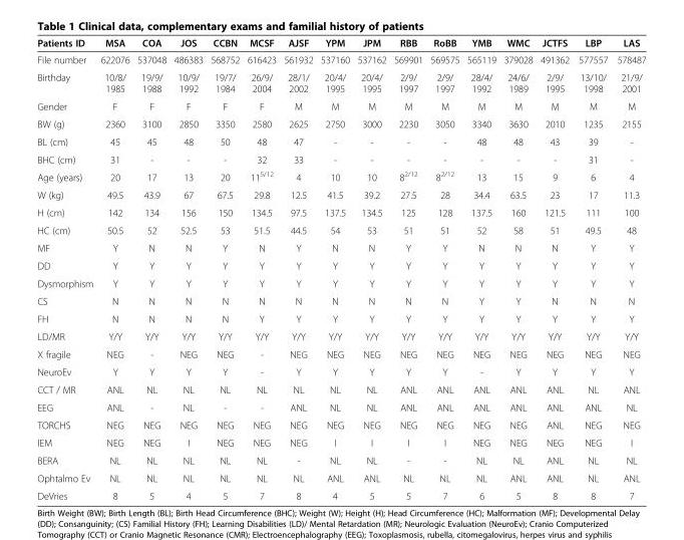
<table><thead><tr><td>Patients ID</td><td>MSA</td><td>COA</td><td>JOS</td><td>CCBN</td><td>MCSF</td><td>AJSF</td><td>YPM</td><td>JPM</td><td>RBB</td><td>RoBB</td><td>YMB</td><td>WMC</td><td>JCTFS</td><td>LBP</td><td>LAS</td></tr></thead><tbody><tr><td>File number</td><td>622076</td><td>537048</td><td>486383</td><td>568752</td><td>616423</td><td>561932</td><td>537160</td><td>537162</td><td>569901</td><td>569575</td><td>565119</td><td>379028</td><td>491362</td><td>577557</td><td>578487</td></tr><tr><td>Birthday</td><td>10/8/ 1985</td><td>19/9/ 1988</td><td>10/9/ 1992</td><td>19/7/ 1984</td><td>26/9/ 2004</td><td>28/1/ 2002</td><td>20/4/ 1995</td><td>20/4/ 1995</td><td>2/9/ 1997</td><td>2/9/ 1997</td><td>28/4/ 1992</td><td>24/6/ 1989</td><td>2/9/ 1995</td><td>13/10/ 1998</td><td>21/9/ 2001</td></tr><tr><td>Gender</td><td>F</td><td>F</td><td>F</td><td>F</td><td>F</td><td>M</td><td>M</td><td>M</td><td>M</td><td>M</td><td>M</td><td>M</td><td>M</td><td>M</td><td>M</td></tr><tr><td>BW (g)</td><td>2360</td><td>3100</td><td>2850</td><td>3350</td><td>2580</td><td>2625</td><td>2750</td><td>3000</td><td>2230</td><td>3050</td><td>3340</td><td>3630</td><td>2010</td><td>1235</td><td>2155</td></tr><tr><td>BL (cm)</td><td>45</td><td>45</td><td>48</td><td>50</td><td>48</td><td>47</td><td>-</td><td>-</td><td>-</td><td>-</td><td>48</td><td>48</td><td>43</td><td>39</td><td>-</td></tr><tr><td>BHC (cm)</td><td>31</td><td>-</td><td>-</td><td>-</td><td>32</td><td>33</td><td>-</td><td>-</td><td>-</td><td>-</td><td>-</td><td>-</td><td>-</td><td>31</td><td>-</td></tr><tr><td>Age (years)</td><td>20</td><td>17</td><td>13</td><td>20</td><td>11<sup>5/12</sup></td><td>4</td><td>10</td><td>10</td><td>8<sup>2/12</sup></td><td>8<sup>2/12</sup></td><td>13</td><td>15</td><td>9</td><td>6</td><td>4</td></tr><tr><td>W (kg)</td><td>49.5</td><td>43.9</td><td>67</td><td>67.5</td><td>29.8</td><td>12.5</td><td>41.5</td><td>39.2</td><td>27.5</td><td>28</td><td>34.4</td><td>63.5</td><td>23</td><td>17</td><td>11.3</td></tr><tr><td>H (cm)</td><td>142</td><td>134</td><td>156</td><td>150</td><td>134.5</td><td>97.5</td><td>137.5</td><td>134.5</td><td>125</td><td>128</td><td>137.5</td><td>160</td><td>121.5</td><td>111</td><td>100</td></tr><tr><td>HC (cm)</td><td>50.5</td><td>52</td><td>52.5</td><td>53</td><td>51.5</td><td>44.5</td><td>54</td><td>53</td><td>51</td><td>51</td><td>52</td><td>58</td><td>51</td><td>49.5</td><td>48</td></tr><tr><td>MF</td><td>Y</td><td>N</td><td>N</td><td>Y</td><td>N</td><td>Y</td><td>N</td><td>N</td><td>Y</td><td>Y</td><td>N</td><td>N</td><td>N</td><td>Y</td><td>Y</td></tr><tr><td>DD</td><td>Y</td><td>Y</td><td>Y</td><td>Y</td><td>Y</td><td>Y</td><td>Y</td><td>Y</td><td>Y</td><td>Y</td><td>Y</td><td>Y</td><td>Y</td><td>Y</td><td>Y</td></tr><tr><td>Dysmorphism</td><td>Y</td><td>Y</td><td>Y</td><td>Y</td><td>Y</td><td>Y</td><td>Y</td><td>Y</td><td>Y</td><td>Y</td><td>Y</td><td>Y</td><td>Y</td><td>Y</td><td>Y</td></tr><tr><td>CS</td><td>N</td><td>N</td><td>N</td><td>N</td><td>N</td><td>N</td><td>N</td><td>N</td><td>N</td><td>N</td><td>Y</td><td>Y</td><td>N</td><td>N</td><td>N</td></tr><tr><td>FH</td><td>N</td><td>N</td><td>N</td><td>N</td><td>Y</td><td>Y</td><td>Y</td><td>Y</td><td>Y</td><td>Y</td><td>Y</td><td>Y</td><td>Y</td><td>Y</td><td>Y</td></tr><tr><td>LD/MR</td><td>Y/Y</td><td>Y/Y</td><td>Y/Y</td><td>Y/Y</td><td>Y/Y</td><td>Y/Y</td><td>Y/Y</td><td>Y/Y</td><td>Y/Y</td><td>Y/Y</td><td>Y/Y</td><td>Y/Y</td><td>Y/Y</td><td>Y/Y</td><td>Y/Y</td></tr><tr><td>X fragile</td><td>NEG</td><td>-</td><td>NEG</td><td>NEG</td><td>-</td><td>NEG</td><td>NEG</td><td>NEG</td><td>NEG</td><td>NEG</td><td>NEG</td><td>NEG</td><td>NEG</td><td>NEG</td><td>NEG</td></tr><tr><td>NeuroEv</td><td>Y</td><td>Y</td><td>Y</td><td>Y</td><td>-</td><td>Y</td><td>Y</td><td>Y</td><td>Y</td><td>Y</td><td>-</td><td>Y</td><td>Y</td><td>Y</td><td>Y</td></tr><tr><td>CCT / MR</td><td>ANL</td><td>NL</td><td>NL</td><td>NL</td><td>NL</td><td>NL</td><td>NL</td><td>NL</td><td>ANL</td><td>ANL</td><td>ANL</td><td>ANL</td><td>ANL</td><td>NL</td><td>ANL</td></tr><tr><td>EEG</td><td>ANL</td><td>-</td><td>NL</td><td>-</td><td>-</td><td>ANL</td><td>NL</td><td>NL</td><td>ANL</td><td>ANL</td><td>ANL</td><td>ANL</td><td>ANL</td><td>ANL</td><td>NL</td></tr><tr><td>TORCHS</td><td>NEG</td><td>NEG</td><td>NEG</td><td>NEG</td><td>NEG</td><td>NEG</td><td>NEG</td><td>NEG</td><td>NEG</td><td>NEG</td><td>NEG</td><td>NEG</td><td>ANL</td><td>NEG</td><td>NEG</td></tr><tr><td>IEM</td><td>NEG</td><td>NEG</td><td>I</td><td>NEG</td><td>NEG</td><td>NEG</td><td>I</td><td>I</td><td>I</td><td>I</td><td>NEG</td><td>NEG</td><td>NEG</td><td>NEG</td><td>I</td></tr><tr><td>BERA</td><td>NL</td><td>NL</td><td>NL</td><td>NL</td><td>NL</td><td>-</td><td>NL</td><td>NL</td><td>-</td><td>-</td><td>NL</td><td>NL</td><td>ANL</td><td>NL</td><td>NL</td></tr><tr><td>Ophtalmo Ev</td><td>NL</td><td>NL</td><td>NL</td><td>NL</td><td>NL</td><td>NL</td><td>ANL</td><td>ANL</td><td>NL</td><td>NL</td><td>NL</td><td>ANL</td><td>ANL</td><td>NL</td><td>ANL</td></tr><tr><td>DeVries</td><td>8</td><td>5</td><td>4</td><td>5</td><td>7</td><td>8</td><td>4</td><td>5</td><td>5</td><td>7</td><td>6</td><td>5</td><td>8</td><td>8</td><td>7</td></tr></tbody></table>